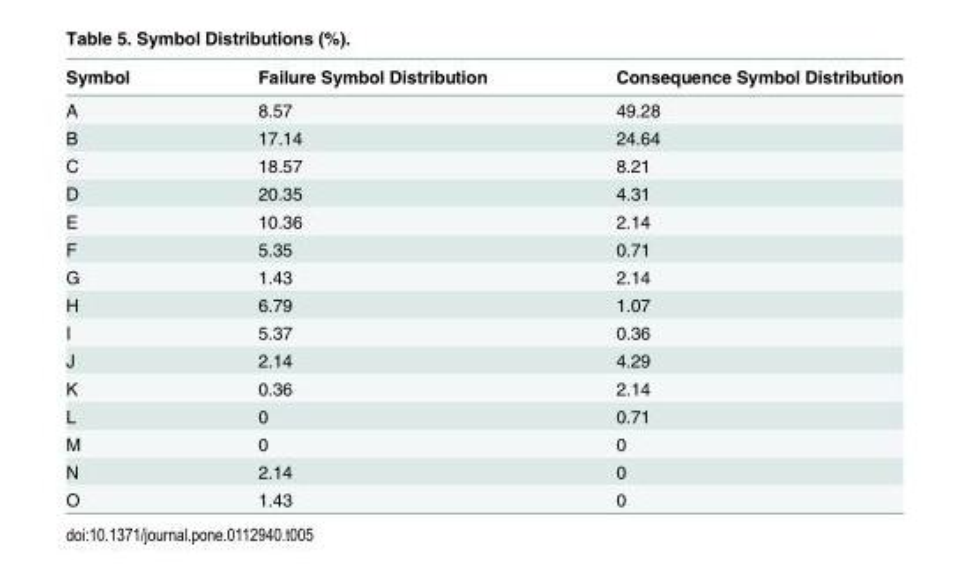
<table><thead><tr><td>Symbol</td><td>Failure Symbol Distribution</td><td>Consequence Symbol Distribution</td></tr></thead><tbody><tr><td>A</td><td>8.57</td><td>49.28</td></tr><tr><td>B</td><td>17.14</td><td>24.64</td></tr><tr><td>C</td><td>18.57</td><td>8.21</td></tr><tr><td>D</td><td>20.35</td><td>4.31</td></tr><tr><td>E</td><td>10.36</td><td>2.14</td></tr><tr><td>F</td><td>5.35</td><td>0.71</td></tr><tr><td>G</td><td>1.43</td><td>2.14</td></tr><tr><td>H</td><td>6.79</td><td>1.07</td></tr><tr><td>I</td><td>5.37</td><td>0.36</td></tr><tr><td>J</td><td>2.14</td><td>4.29</td></tr><tr><td>K</td><td>0.36</td><td>2.14</td></tr><tr><td>L</td><td>0</td><td>0.71</td></tr><tr><td>M</td><td>0</td><td>0</td></tr><tr><td>N</td><td>2.14</td><td>0</td></tr><tr><td>O</td><td>1.43</td><td>0</td></tr></tbody></table>